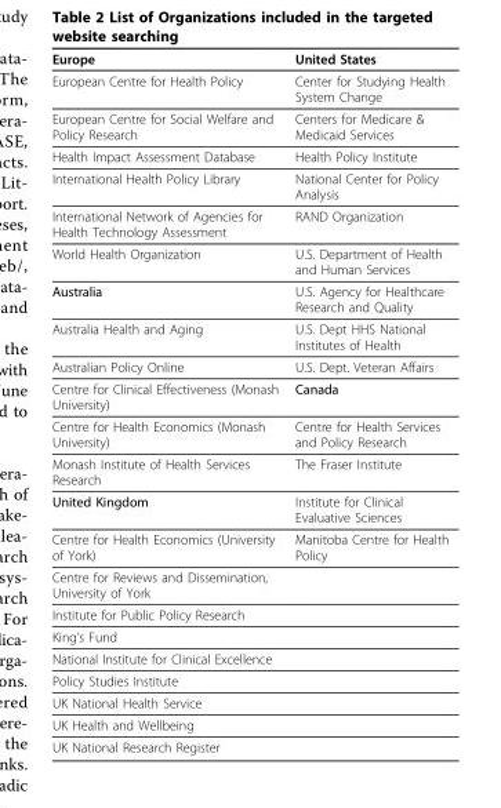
<table><thead><tr><td>Europe</td><td>United States</td></tr></thead><tbody><tr><td>European Centre for Health Policy</td><td>Center for Studying Health System Change</td></tr><tr><td>European Centre for Social Welfare and Policy Research</td><td>Centers for Medicare &amp; Medicaid Services</td></tr><tr><td>Health Impact Assessment Database</td><td>Health Policy Institute</td></tr><tr><td>International Health Policy Library</td><td>National Center for Policy Analysis</td></tr><tr><td>International Network of Agencies for Health Technology Assessment</td><td>RAND Organization</td></tr><tr><td>World Health Organization</td><td>U.S. Department of Health and Human Services</td></tr><tr><td>Australia</td><td>U.S. Agency for Healthcare Research and Quality</td></tr><tr><td>Australia Health and Aging</td><td>U.S. Dept HHS National Institutes of Health</td></tr><tr><td>Australian Policy Online</td><td>U.S. Dept. Veteran Affairs</td></tr><tr><td>Centre for Clinical Effectiveness (Monash University)</td><td>Canada</td></tr><tr><td>Centre for Health Economics (Monash University)</td><td>Centre for Health Services and Policy Research</td></tr><tr><td>Monash Institute of Health Services Research</td><td>The Fraser Institute</td></tr><tr><td>United Kingdom</td><td>Institute for Clinical Evaluative Sciences</td></tr><tr><td>Centre for Health Economics (University of York)</td><td>Manitoba Centre for Health Policy</td></tr><tr><td colspan="2">Centre for Reviews and Dissemination, University of York</td></tr><tr><td colspan="2">Institute for Public Policy Research</td></tr><tr><td colspan="2">King’s Fund</td></tr><tr><td colspan="2">National Institute for Clinical Excellence</td></tr><tr><td colspan="2">Policy Studies Institute</td></tr><tr><td colspan="2">UK National Health Service</td></tr><tr><td colspan="2">UK Health and Wellbeing</td></tr><tr><td>UK National Research Register</td><td></td></tr></tbody></table>